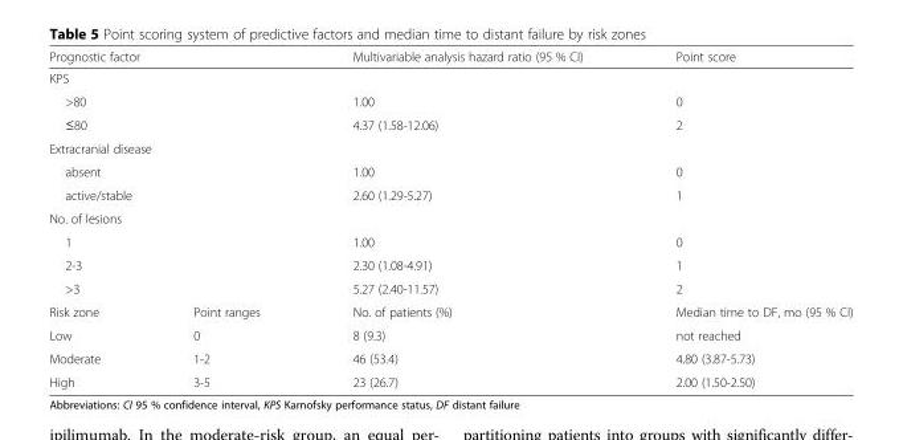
<table><thead><tr><td colspan="2">Prognostic factor</td><td>Multivariable analysis hazard ratio (95 % CI)</td><td>Point score</td></tr></thead><tbody><tr><td colspan="4">KPS</td></tr><tr><td colspan="2">&gt;80</td><td>1.00</td><td>0</td></tr><tr><td colspan="2">≤80</td><td>4.37 (1.58-12.06)</td><td>2</td></tr><tr><td colspan="4">Extracranial disease</td></tr><tr><td colspan="2">absent</td><td>1.00</td><td>0</td></tr><tr><td colspan="2">active/stable</td><td>2.60 (1.29-5.27)</td><td>1</td></tr><tr><td colspan="4">No. of lesions</td></tr><tr><td colspan="2">1</td><td>1.00</td><td>0</td></tr><tr><td colspan="2">2-3</td><td>2.30 (1.08-4.91)</td><td>1</td></tr><tr><td colspan="2">&gt;3</td><td>5.27 (2.40-11.57)</td><td>2</td></tr><tr><td>Risk zone</td><td>Point ranges</td><td>No. of patients (%)</td><td>Median time to DF, mo (95 % CI)</td></tr><tr><td>Low</td><td>0</td><td>8 (9.3)</td><td>not reached</td></tr><tr><td>Moderate</td><td>1-2</td><td>46 (53.4)</td><td>4.80 (3.87-5.73)</td></tr><tr><td>High</td><td>3-5</td><td>23 (26.7)</td><td>2.00 (1.50-2.50)</td></tr></tbody></table>